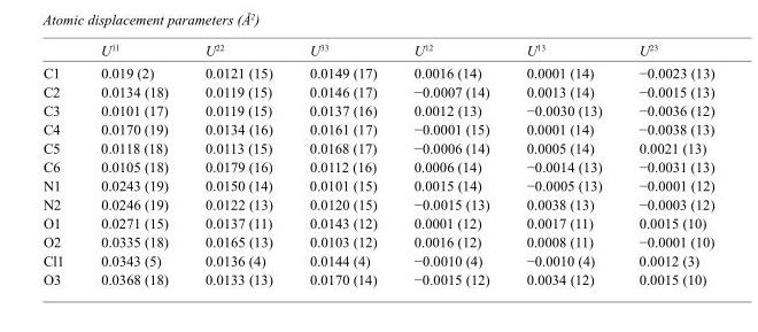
<table><thead><tr><td></td><td>U<sup>11</sup></td><td>U<sup>22</sup></td><td>U<sup>33</sup></td><td>U<sup>12</sup></td><td>U<sup>13</sup></td><td>U<sup>23</sup></td></tr></thead><tbody><tr><td>C1</td><td>0.019 (2)</td><td>0.0121 (15)</td><td>0.0149 (17)</td><td>0.0016 (14)</td><td>0.0001 (14)</td><td>−0.0023 (13)</td></tr><tr><td>C2</td><td>0.0134 (18)</td><td>0.0119 (15)</td><td>0.0146 (17)</td><td>−0.0007 (14)</td><td>0.0013 (14)</td><td>−0.0015 (13)</td></tr><tr><td>C3</td><td>0.0101 (17)</td><td>0.0119 (15)</td><td>0.0137 (16)</td><td>0.0012 (13)</td><td>−0.0030 (13)</td><td>−0.0036 (12)</td></tr><tr><td>C4</td><td>0.0170 (19)</td><td>0.0134 (16)</td><td>0.0161 (17)</td><td>−0.0001 (15)</td><td>0.0001 (14)</td><td>−0.0038 (13)</td></tr><tr><td>C5</td><td>0.0118 (18)</td><td>0.0113 (15)</td><td>0.0168 (17)</td><td>−0.0006 (14)</td><td>0.0005 (14)</td><td>0.0021 (13)</td></tr><tr><td>C6</td><td>0.0105 (18)</td><td>0.0179 (16)</td><td>0.0112 (16)</td><td>0.0006 (14)</td><td>−0.0014 (13)</td><td>−0.0031 (13)</td></tr><tr><td>N1</td><td>0.0243 (19)</td><td>0.0150 (14)</td><td>0.0101 (15)</td><td>0.0015 (14)</td><td>−0.0005 (13)</td><td>−0.0001 (12)</td></tr><tr><td>N2</td><td>0.0246 (19)</td><td>0.0122 (13)</td><td>0.0120 (15)</td><td>−0.0015 (13)</td><td>0.0038 (13)</td><td>−0.0003 (12)</td></tr><tr><td>O1</td><td>0.0271 (15)</td><td>0.0137 (11)</td><td>0.0143 (12)</td><td>0.0001 (12)</td><td>0.0017 (11)</td><td>0.0015 (10)</td></tr><tr><td>O2</td><td>0.0335 (18)</td><td>0.0165 (13)</td><td>0.0103 (12)</td><td>0.0016 (12)</td><td>0.0008 (11)</td><td>−0.0001 (10)</td></tr><tr><td>Cl1</td><td>0.0343 (5)</td><td>0.0136 (4)</td><td>0.0144 (4)</td><td>−0.0010 (4)</td><td>−0.0010 (4)</td><td>0.0012 (3)</td></tr><tr><td>O3</td><td>0.0368 (18)</td><td>0.0133 (13)</td><td>0.0170 (14)</td><td>−0.0015 (12)</td><td>0.0034 (12)</td><td>0.0015 (10)</td></tr></tbody></table>